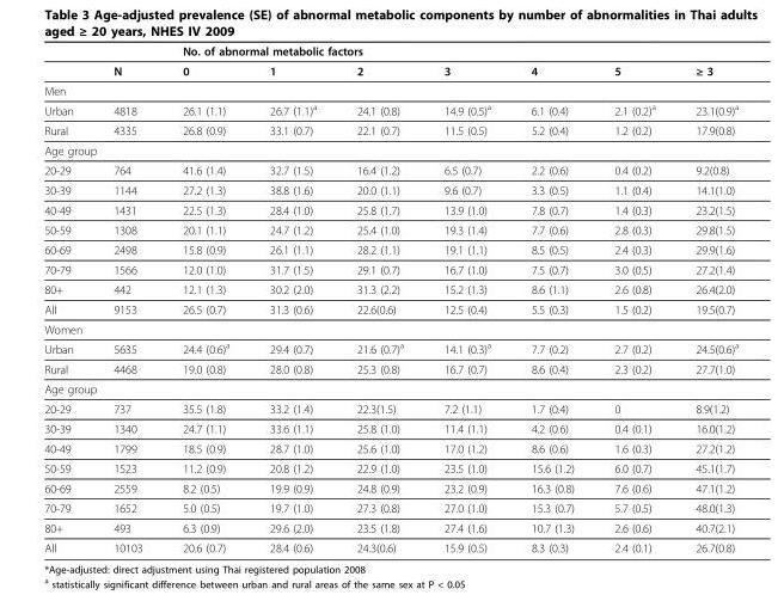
<table><thead><tr><td rowspan="2"></td><td rowspan="2">N</td><td colspan="7">No. of abnormal metabolic factors</td></tr><tr><td>0</td><td>1</td><td>2</td><td>3</td><td>4</td><td>5</td><td>≥ 3</td></tr></thead><tbody><tr><td colspan="9">Men</td></tr><tr><td>Urban</td><td>4818</td><td>26.1 (1.1)</td><td>26.7 (1.1)<sup>a</sup></td><td>24.1 (0.8)</td><td>14.9 (0.5)<sup>a</sup></td><td>6.1 (0.4)</td><td>2.1 (0.2)<sup>a</sup></td><td>23.1(0.9)<sup>a</sup></td></tr><tr><td>Rural</td><td>4335</td><td>26.8 (0.9)</td><td>33.1 (0.7)</td><td>22.1 (0.7)</td><td>11.5 (0.5)</td><td>5.2 (0.4)</td><td>1.2 (0.2)</td><td>17.9(0.8)</td></tr><tr><td colspan="9">Age group</td></tr><tr><td>20-29</td><td>764</td><td>41.6 (1.4)</td><td>32.7 (1.5)</td><td>16.4 (1.2)</td><td>6.5 (0.7)</td><td>2.2 (0.6)</td><td>0.4 (0.2)</td><td>9.2(0.8)</td></tr><tr><td>30-39</td><td>1144</td><td>27.2 (1.3)</td><td>38.8 (1.6)</td><td>20.0 (1.1)</td><td>9.6 (0.7)</td><td>3.3 (0.5)</td><td>1.1 (0.4)</td><td>14.1(1.0)</td></tr><tr><td>40-49</td><td>1431</td><td>22.5 (1.3)</td><td>28.4 (1.0)</td><td>25.8 (1.7)</td><td>13.9 (1.0)</td><td>7.8 (0.7)</td><td>1.4 (0.3)</td><td>23.2(1.5)</td></tr><tr><td>50-59</td><td>1308</td><td>20.1 (1.1)</td><td>24.7 (1.2)</td><td>25.4 (1.0)</td><td>19.3 (1.4)</td><td>7.7 (0.6)</td><td>2.8 (0.3)</td><td>29.8(1.5)</td></tr><tr><td>60-69</td><td>2498</td><td>15.8 (0.9)</td><td>26.1 (1.1)</td><td>28.2 (1.1)</td><td>19.1 (1.1)</td><td>8.5 (0.5)</td><td>2.4 (0.3)</td><td>29.9(1.6)</td></tr><tr><td>70-79</td><td>1566</td><td>12.0 (1.0)</td><td>31.7 (1.5)</td><td>29.1 (0.7)</td><td>16.7 (1.0)</td><td>7.5 (0.7)</td><td>3.0 (0.5)</td><td>27.2(1.4)</td></tr><tr><td>80+</td><td>442</td><td>12.1 (1.3)</td><td>30.2 (2.0)</td><td>31.3 (2.2)</td><td>15.2 (1.3)</td><td>8.6 (1.1)</td><td>2.6 (0.8)</td><td>26.4(2.0)</td></tr><tr><td>All</td><td>9153</td><td>26.5 (0.7)</td><td>31.3 (0.6)</td><td>22.6(0.6)</td><td>12.5 (0.4)</td><td>5.5 (0.3)</td><td>1.5 (0.2)</td><td>19.5(0.7)</td></tr><tr><td colspan="9">Women</td></tr><tr><td>Urban</td><td>5635</td><td>24.4 (0.6)<sup>a</sup></td><td>29.4 (0.7)</td><td>21.6 (0.7)<sup>a</sup></td><td>14.1 (0.3)<sup>a</sup></td><td>7.7 (0.2)</td><td>2.7 (0.2)</td><td>24.5(0.6)<sup>a</sup></td></tr><tr><td>Rural</td><td>4468</td><td>19.0 (0.8)</td><td>28.0 (0.8)</td><td>25.3 (0.8)</td><td>16.7 (0.7)</td><td>8.6 (0.4)</td><td>2.3 (0.2)</td><td>27.7(1.0)</td></tr><tr><td colspan="9">Age group</td></tr><tr><td>20-29</td><td>737</td><td>35.5 (1.8)</td><td>33.2 (1.4)</td><td>22.3(1.5)</td><td>7.2 (1.1)</td><td>1.7 (0.4)</td><td>0</td><td>8.9(1.2)</td></tr><tr><td>30-39</td><td>1340</td><td>24.7 (1.1)</td><td>33.6 (1.1)</td><td>25.8 (1.0)</td><td>11.4 (1.1)</td><td>4.2 (0.6)</td><td>0.4 (0.1)</td><td>16.0(1.2)</td></tr><tr><td>40-49</td><td>1799</td><td>18.5 (0.9)</td><td>28.7 (1.0)</td><td>25.6 (1.0)</td><td>17.0 (1.2)</td><td>8.6 (0.6)</td><td>1.6 (0.3)</td><td>27.2(1.2)</td></tr><tr><td>50-59</td><td>1523</td><td>11.2 (0.9)</td><td>20.8 (1.2)</td><td>22.9 (1.0)</td><td>23.5 (1.0)</td><td>15.6 (1.2)</td><td>6.0 (0.7)</td><td>45.1(1.7)</td></tr><tr><td>60-69</td><td>2559</td><td>8.2 (0.5)</td><td>19.9 (0.9)</td><td>24.8 (0.9)</td><td>23.2 (0.9)</td><td>16.3 (0.8)</td><td>7.6 (0.6)</td><td>47.1(1.2)</td></tr><tr><td>70-79</td><td>1652</td><td>5.0 (0.5)</td><td>19.7 (1.0)</td><td>27.3 (0.8)</td><td>27.0 (1.0)</td><td>15.3 (0.7)</td><td>5.7 (0.5)</td><td>48.0(1.3)</td></tr><tr><td>80+</td><td>493</td><td>6.3 (0.9)</td><td>29.6 (2.0)</td><td>23.5 (1.8)</td><td>27.4 (1.6)</td><td>10.7 (1.3)</td><td>2.6 (0.6)</td><td>40.7(2.1)</td></tr><tr><td>All</td><td>10103</td><td>20.6 (0.7)</td><td>28.4 (0.6)</td><td>24.3(0.6)</td><td>15.9 (0.5)</td><td>8.3 (0.3)</td><td>2.4 (0.1)</td><td>26.7(0.8)</td></tr></tbody></table>